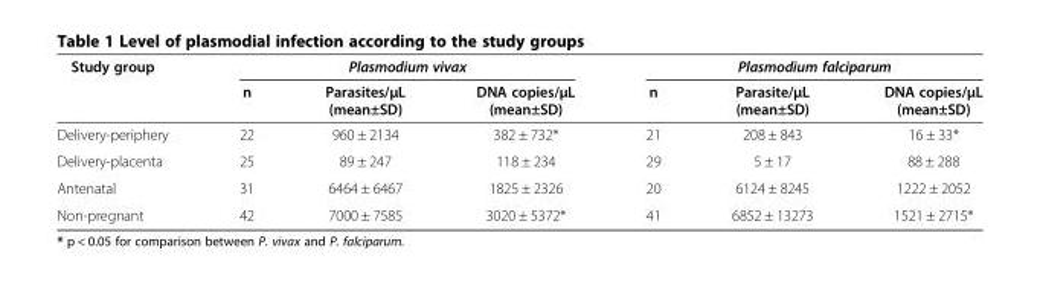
<table><thead><tr><td rowspan="2">Study group</td><td colspan="3">Plasmodium vivax</td><td colspan="3">Plasmodium falciparum</td></tr><tr><td>n</td><td>Parasites/μL (mean±SD)</td><td>DNA copies/μL (mean±SD)</td><td>n</td><td>Parasite/μL (mean±SD)</td><td>DNA copies/μL (mean±SD)</td></tr></thead><tbody><tr><td>Delivery-periphery</td><td>22</td><td>960 ± 2134</td><td>382 ± 732*</td><td>21</td><td>208 ± 843</td><td>16 ± 33*</td></tr><tr><td>Delivery-placenta</td><td>25</td><td>89 ± 247</td><td>118 ± 234</td><td>29</td><td>5 ± 17</td><td>88 ± 288</td></tr><tr><td>Antenatal</td><td>31</td><td>6464 ± 6467</td><td>1825 ± 2326</td><td>20</td><td>6124 ± 8245</td><td>1222 ± 2052</td></tr><tr><td>Non-pregnant</td><td>42</td><td>7000 ± 7585</td><td>3020 ± 5372*</td><td>41</td><td>6852 ± 13273</td><td>1521 ± 2715*</td></tr></tbody></table>